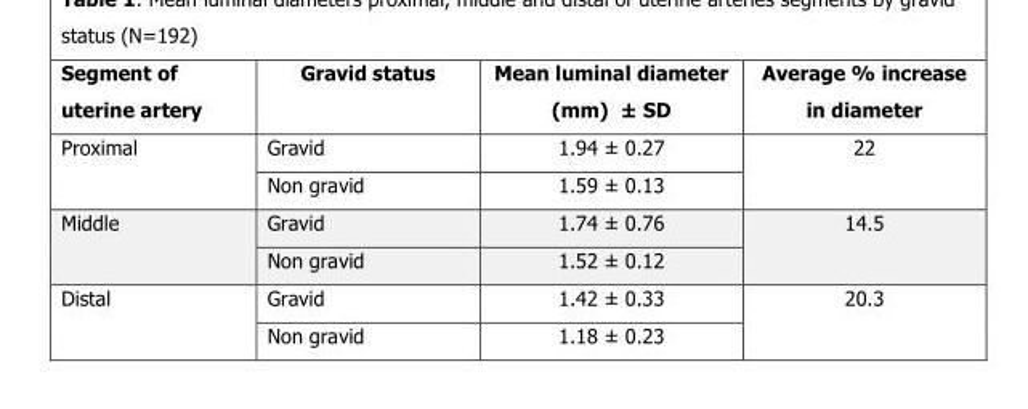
<table><thead><tr><td>Segment of uterine artery</td><td>Gravid status</td><td>Mean luminal diameter (mm) ± SD</td><td>Average % increase in diameter</td></tr></thead><tbody><tr><td rowspan="2">Proximal</td><td>Gravid</td><td>1.94 ± 0.27</td><td rowspan="2">22</td></tr><tr><td>Non gravid</td><td>1.59 ± 0.13</td></tr><tr><td rowspan="2">Middle</td><td>Gravid</td><td>1.74 ± 0.76</td><td rowspan="2">14.5</td></tr><tr><td>Non gravid</td><td>1.52 ± 0.12</td></tr><tr><td rowspan="2">Distal</td><td>Gravid</td><td>1.42 ± 0.33</td><td rowspan="2">20.3</td></tr><tr><td>Non gravid</td><td>1.18 ± 0.23</td></tr></tbody></table>